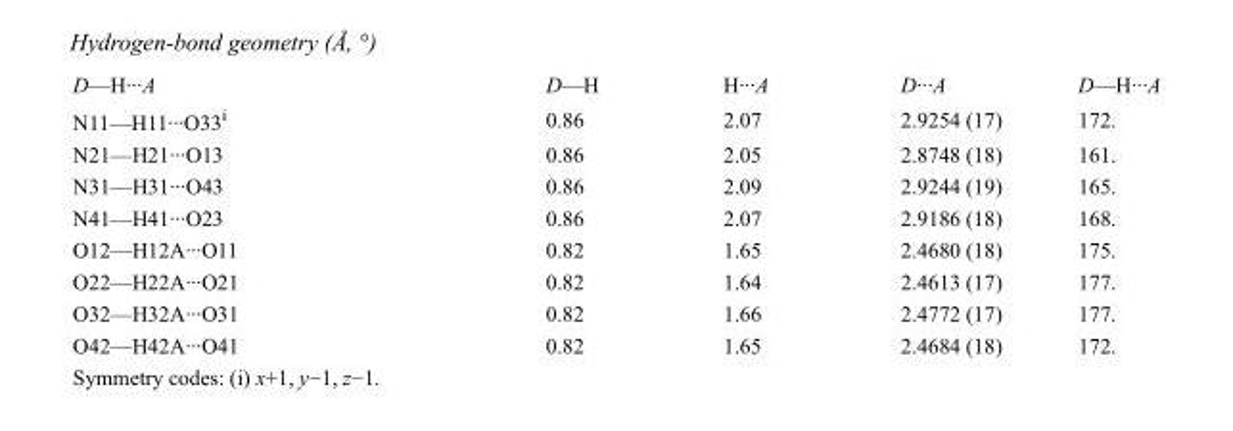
<table><tbody><tr><td>D—H···A</td><td>D—H</td><td>H···A</td><td>D···A</td><td>D—H···A</td></tr><tr><td>N11—H11···O33<sup>i</sup></td><td>0.86</td><td>2.07</td><td>2.9254 (17)</td><td>172.</td></tr><tr><td>N21—H21···O13</td><td>0.86</td><td>2.05</td><td>2.8748 (18)</td><td>161.</td></tr><tr><td>N31—H31···O43</td><td>0.86</td><td>2.09</td><td>2.9244 (19)</td><td>165.</td></tr><tr><td>N41—H41···O23</td><td>0.86</td><td>2.07</td><td>2.9186 (18)</td><td>168.</td></tr><tr><td>O12—H12A···O11</td><td>0.82</td><td>1.65</td><td>2.4680 (18)</td><td>175.</td></tr><tr><td>O22—H22A···O21</td><td>0.82</td><td>1.64</td><td>2.4613 (17)</td><td>177.</td></tr><tr><td>O32—H32A···O31</td><td>0.82</td><td>1.66</td><td>2.4772 (17)</td><td>177.</td></tr><tr><td>O42—H42A···O41</td><td>0.82</td><td>1.65</td><td>2.4684 (18)</td><td>172.</td></tr></tbody></table>